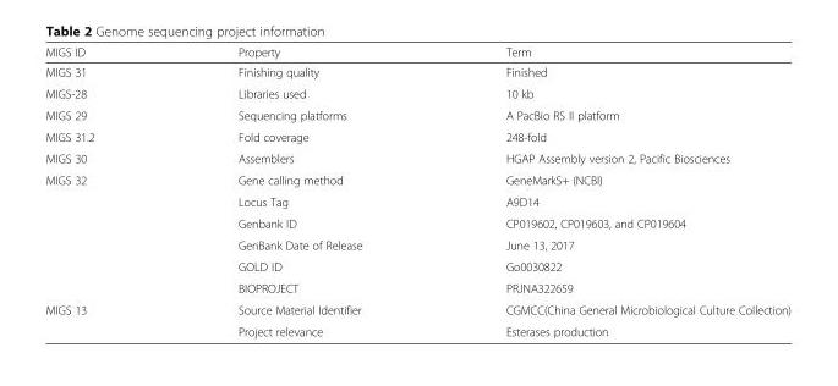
<table><thead><tr><td>MIGS ID</td><td>Property</td><td>Term</td></tr></thead><tbody><tr><td>MIGS 31</td><td>Finishing quality</td><td>Finished</td></tr><tr><td>MIGS-28</td><td>Libraries used</td><td>10 kb</td></tr><tr><td>MIGS 29</td><td>Sequencing platforms</td><td>A PacBio RS II platform</td></tr><tr><td>MIGS 31.2</td><td>Fold coverage</td><td>248-fold</td></tr><tr><td>MIGS 30</td><td>Assemblers</td><td>HGAP Assembly version 2, Pacific Biosciences</td></tr><tr><td rowspan="6">MIGS 32</td><td>Gene calling method</td><td>GeneMarkS+ (NCBI)</td></tr><tr><td>Locus Tag</td><td>A9D14</td></tr><tr><td>Genbank ID</td><td>CP019602, CP019603, and CP019604</td></tr><tr><td>GenBank Date of Release</td><td>June 13, 2017</td></tr><tr><td>GOLD ID</td><td>Go0030822</td></tr><tr><td>BIOPROJECT</td><td>PRJNA322659</td></tr><tr><td rowspan="2">MIGS 13</td><td>Source Material Identifier</td><td>CGMCC(China General Microbiological Culture Collection)</td></tr><tr><td>Project relevance</td><td>Esterases production</td></tr></tbody></table>